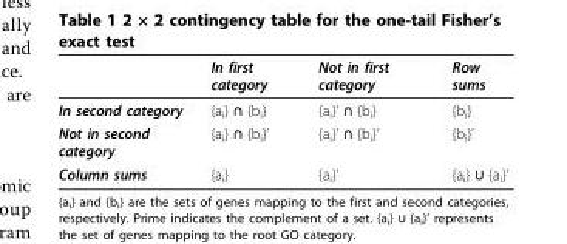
<table><thead><tr><td></td><td>In first category</td><td>Not in first category</td><td>Row sums</td></tr></thead><tbody><tr><td>In second category</td><td>{a<sub>i</sub>} ∩ {b<sub>i</sub>}</td><td>{a<sub>i</sub>}’ ∩ {b<sub>i</sub>}</td><td>{b<sub>i</sub>}</td></tr><tr><td>Not in second category</td><td>{a<sub>i</sub>} ∩ {b<sub>i</sub>}’</td><td>{a<sub>i</sub>}’ ∩ {b<sub>i</sub>}’</td><td>{b<sub>i</sub>}’</td></tr><tr><td>Column sums</td><td>{a<sub>i</sub>}</td><td>{a<sub>i</sub>}’</td><td>{a<sub>i</sub>} ∪ {a<sub>i</sub>}’</td></tr></tbody></table>